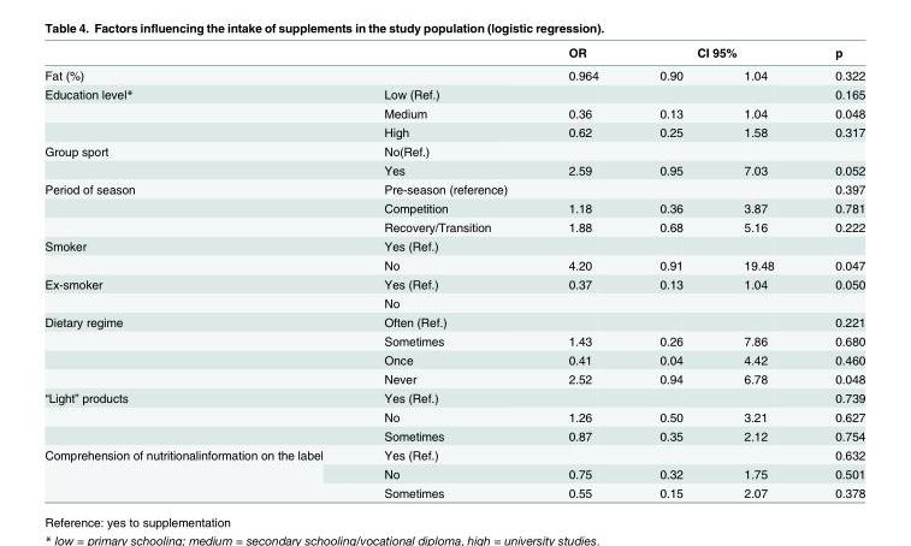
<table><thead><tr><td rowspan="2">Fat (%)</td><td rowspan="2"></td><td rowspan="2">OR 0.964</td><td colspan="2">CI 95%</td><td rowspan="2">p 0.322</td></tr><tr><td>0.90</td><td>1.04</td></tr></thead><tbody><tr><td rowspan="3">Education level*</td><td>Low (Ref.)</td><td></td><td></td><td></td><td>0.165</td></tr><tr><td>Medium</td><td>0.36</td><td>0.13</td><td>1.04</td><td>0.048</td></tr><tr><td>High</td><td>0.62</td><td>0.25</td><td>1.58</td><td>0.317</td></tr><tr><td rowspan="2">Group sport</td><td>No(Ref.)</td><td></td><td></td><td></td><td></td></tr><tr><td>Yes</td><td>2.59</td><td>0.95</td><td>7.03</td><td>0.052</td></tr><tr><td rowspan="3">Period of season</td><td>Pre-season (reference)</td><td></td><td></td><td></td><td>0.397</td></tr><tr><td>Competition</td><td>1.18</td><td>0.36</td><td>3.87</td><td>0.781</td></tr><tr><td>Recovery/Transition</td><td>1.88</td><td>0.68</td><td>5.16</td><td>0.222</td></tr><tr><td rowspan="2">Smoker</td><td>Yes (Ref.)</td><td></td><td></td><td></td><td></td></tr><tr><td>No</td><td>4.20</td><td>0.91</td><td>19.48</td><td>0.047</td></tr><tr><td rowspan="2">Ex-smoker</td><td>Yes (Ref.)</td><td>0.37</td><td>0.13</td><td>1.04</td><td>0.050</td></tr><tr><td>No</td><td></td><td></td><td></td><td></td></tr><tr><td rowspan="4">Dietary regime</td><td>Often (Ref.)</td><td></td><td></td><td></td><td>0.221</td></tr><tr><td>Sometimes</td><td>1.43</td><td>0.26</td><td>7.86</td><td>0.680</td></tr><tr><td>Once</td><td>0.41</td><td>0.04</td><td>4.42</td><td>0.460</td></tr><tr><td>Never</td><td>2.52</td><td>0.94</td><td>6.78</td><td>0.048</td></tr><tr><td rowspan="3">“Light” products</td><td>Yes (Ref.)</td><td></td><td></td><td></td><td>0.739</td></tr><tr><td>No</td><td>1.26</td><td>0.50</td><td>3.21</td><td>0.627</td></tr><tr><td>Sometimes</td><td>0.87</td><td>0.35</td><td>2.12</td><td>0.754</td></tr><tr><td rowspan="3">Comprehension of nutritionalinformation on the label</td><td>Yes (Ref.)</td><td></td><td></td><td></td><td>0.632</td></tr><tr><td>No</td><td>0.75</td><td>0.32</td><td>1.75</td><td>0.501</td></tr><tr><td>Sometimes</td><td>0.55</td><td>0.15</td><td>2.07</td><td>0.378</td></tr></tbody></table>